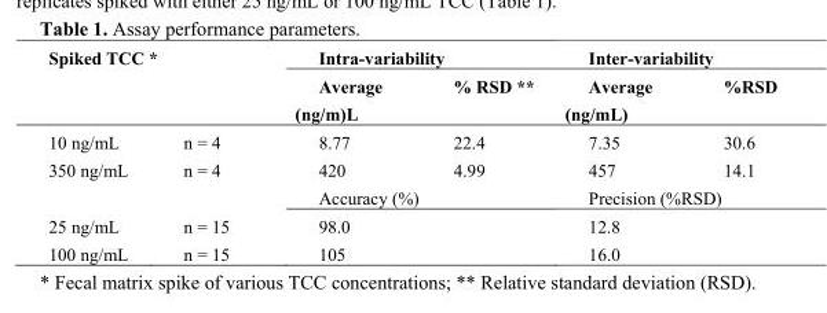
<table><thead><tr><td rowspan="2" colspan="2">Spiked TCC *</td><td colspan="2">Intra-variability</td><td colspan="2">Inter-variability</td></tr><tr><td rowspan="2">Average (ng/m)L 8.77</td><td rowspan="2">% RSD ** 22.4</td><td rowspan="2">Average (ng/mL) 7.35</td><td rowspan="2">%RSD 30.6</td></tr><tr><td>10 ng/mL</td><td>n = 4</td></tr></thead><tbody><tr><td>350 ng/mL</td><td>n = 4</td><td>420</td><td>4.99</td><td>457</td><td>14.1</td></tr><tr><td colspan="2"></td><td colspan="2">Accuracy (%)</td><td colspan="2">Precision (%RSD)</td></tr><tr><td>25 ng/mL</td><td>n = 15</td><td colspan="2">98.0</td><td colspan="2">12.8</td></tr><tr><td>100 ng/mL</td><td>n = 15</td><td colspan="2">105</td><td colspan="2">16.0</td></tr></tbody></table>